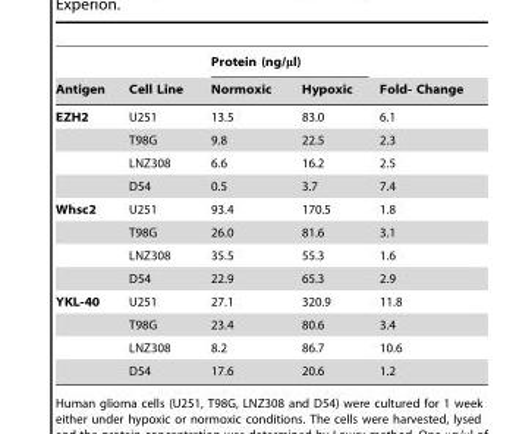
<table><thead><tr><td rowspan="2">Antigen</td><td rowspan="2">Cell Line</td><td colspan="2">Protein (ng/μl)</td><td rowspan="2">Fold- Change</td></tr><tr><td>Normoxic</td><td>Hypoxic</td></tr></thead><tbody><tr><td rowspan="4">EZH2</td><td>U251</td><td>13.5</td><td>83.0</td><td>6.1</td></tr><tr><td>T98G</td><td>9.8</td><td>22.5</td><td>2.3</td></tr><tr><td>LNZ308</td><td>6.6</td><td>16.2</td><td>2.5</td></tr><tr><td>D54</td><td>0.5</td><td>3.7</td><td>7.4</td></tr><tr><td rowspan="4">Whsc2</td><td>U251</td><td>93.4</td><td>170.5</td><td>1.8</td></tr><tr><td>T98G</td><td>26.0</td><td>81.6</td><td>3.1</td></tr><tr><td>LNZ308</td><td>35.5</td><td>55.3</td><td>1.6</td></tr><tr><td>D54</td><td>22.9</td><td>65.3</td><td>2.9</td></tr><tr><td rowspan="4">YKL-40</td><td>U251</td><td>27.1</td><td>320.9</td><td>11.8</td></tr><tr><td>T98G</td><td>23.4</td><td>80.6</td><td>3.4</td></tr><tr><td>LNZ308</td><td>8.2</td><td>86.7</td><td>10.6</td></tr><tr><td>D54</td><td>17.6</td><td>20.6</td><td>1.2</td></tr></tbody></table>